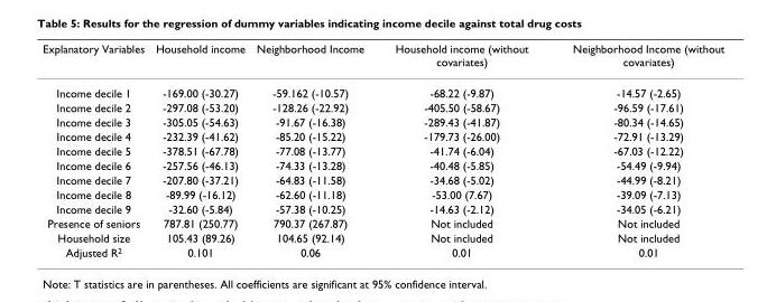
<table><thead><tr><td>Explanatory Variables</td><td>Household income</td><td>Neighborhood Income</td><td>Household income (without covariates)</td><td>Neighborhood Income (without covariates)</td></tr></thead><tbody><tr><td>Income decile 1</td><td>-169.00 (-30.27)</td><td>-59.162 (-10.57)</td><td>-68.22 (-9.87)</td><td>-14.57 (-2.65)</td></tr><tr><td>Income decile 2</td><td>-297.08 (-53.20)</td><td>-128.26 (-22.92)</td><td>-405.50 (-58.67)</td><td>-96.59 (-17.61)</td></tr><tr><td>Income decile 3</td><td>-305.05 (-54.63)</td><td>-91.67 (-16.38)</td><td>-289.43 (-41.87)</td><td>-80.34 (-14.65)</td></tr><tr><td>Income decile 4</td><td>-232.39 (-41.62)</td><td>-85.20 (-15.22)</td><td>-179.73 (-26.00)</td><td>-72.91 (-13.29)</td></tr><tr><td>Income decile 5</td><td>-378.51 (-67.78)</td><td>-77.08 (-13.77)</td><td>-41.74 (-6.04)</td><td>-67.03 (-12.22)</td></tr><tr><td>Income decile 6</td><td>-257.56 (-46.13)</td><td>-74.33 (-13.28)</td><td>-40.48 (-5.85)</td><td>-54.49 (-9.94)</td></tr><tr><td>Income decile 7</td><td>-207.80 (-37.21)</td><td>-64.83 (-11.58)</td><td>-34.68 (-5.02)</td><td>-44.99 (-8.21)</td></tr><tr><td>Income decile 8</td><td>-89.99 (-16.12)</td><td>-62.60 (-11.18)</td><td>-53.00 (7.67)</td><td>-39.09 (-7.13)</td></tr><tr><td>Income decile 9</td><td>-32.60 (-5.84)</td><td>-57.38 (-10.25)</td><td>-14.63 (-2.12)</td><td>-34.05 (-6.21)</td></tr><tr><td>Presence of seniors</td><td>787.81 (250.77)</td><td>790.37 (267.87)</td><td>Not included</td><td>Not included</td></tr><tr><td>Household size</td><td>105.43 (89.26)</td><td>104.65 (92.14)</td><td>Not included</td><td>Not included</td></tr><tr><td>Adjusted R<sup>2</sup></td><td>0.101</td><td>0.06</td><td>0.01</td><td>0.01</td></tr></tbody></table>